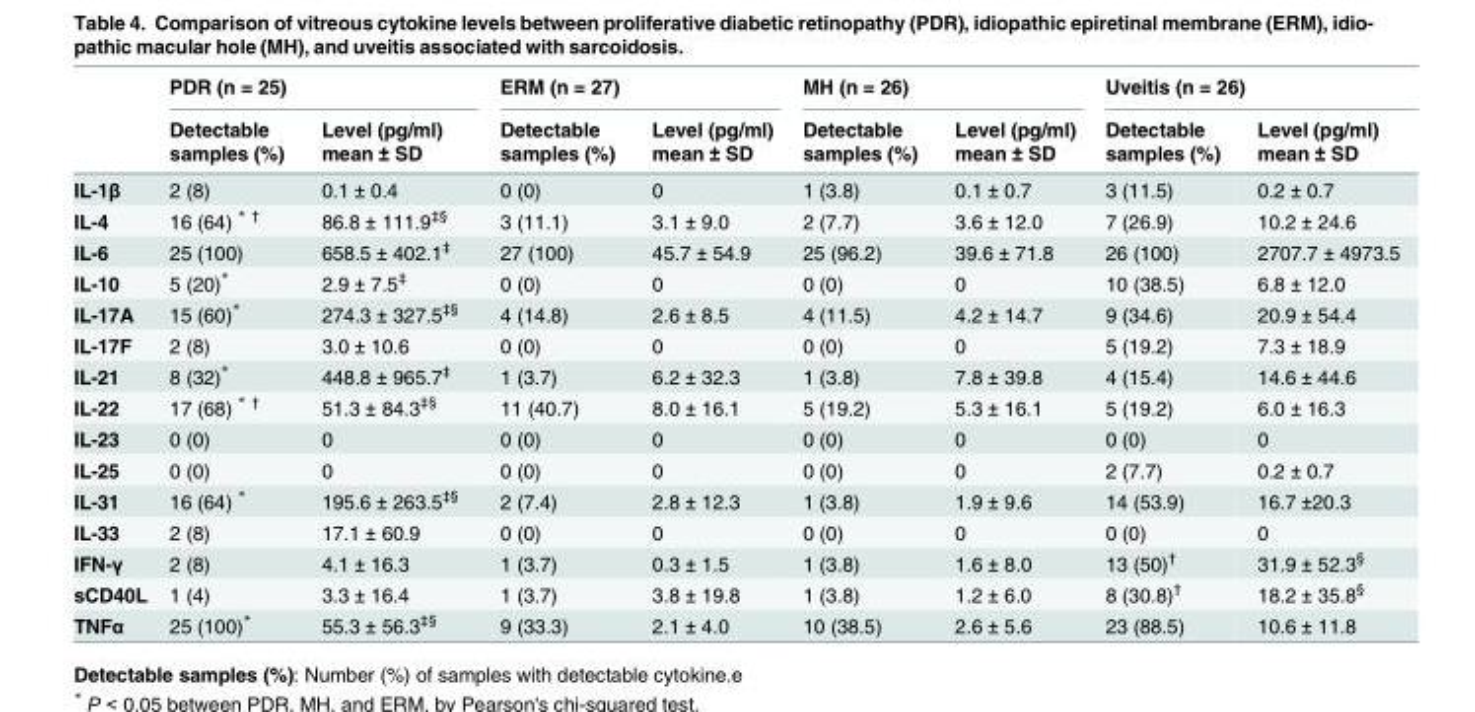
<table><thead><tr><td rowspan="2"></td><td colspan="2">PDR (n = 25)</td><td colspan="2">ERM (n = 27)</td><td colspan="2">MH (n = 26)</td><td colspan="2">Uveitis (n = 26)</td></tr><tr><td>Detectable samples (%)</td><td>Level (pg/ml) mean ± SD</td><td>Detectable samples (%)</td><td>Level (pg/ml) mean ± SD</td><td>Detectable samples (%)</td><td>Level (pg/ml) mean ± SD</td><td>Detectable samples (%)</td><td>Level (pg/ml) mean ± SD</td></tr></thead><tbody><tr><td>IL-1β</td><td>2 (8)</td><td>0.1 ± 0.4</td><td>0 (0)</td><td>0</td><td>1 (3.8)</td><td>0.1 ± 0.7</td><td>3 (11.5)</td><td>0.2 ± 0.7</td></tr><tr><td>IL-4</td><td>16 (64) <sup>* †</sup></td><td>86.8 ± 111.9<sup>‡§</sup></td><td>3 (11.1)</td><td>3.1 ± 9.0</td><td>2 (7.7)</td><td>3.6 ± 12.0</td><td>7 (26.9)</td><td>10.2 ± 24.6</td></tr><tr><td>IL-6</td><td>25 (100)</td><td>658.5 ± 402.1<sup>‡</sup></td><td>27 (100)</td><td>45.7 ± 54.9</td><td>25 (96.2)</td><td>39.6 ± 71.8</td><td>26 (100)</td><td>2707.7 ± 4973.5</td></tr><tr><td>IL-10</td><td>5 (20)*</td><td>2.9 ± 7.5<sup>‡</sup></td><td>0 (0)</td><td>0</td><td>0 (0)</td><td>0</td><td>10 (38.5)</td><td>6.8 ± 12.0</td></tr><tr><td>IL-17A</td><td>15 (60)*</td><td>274.3 ± 327.5<sup>‡§</sup></td><td>4 (14.8)</td><td>2.6 ± 8.5</td><td>4 (11.5)</td><td>4.2 ± 14.7</td><td>9 (34.6)</td><td>20.9 ± 54.4</td></tr><tr><td>IL-17F</td><td>2 (8)</td><td>3.0 ± 10.6</td><td>0 (0)</td><td>0</td><td>0 (0)</td><td>0</td><td>5 (19.2)</td><td>7.3 ± 18.9</td></tr><tr><td>IL-21</td><td>8 (32)*</td><td>448.8 ± 965.7<sup>‡</sup></td><td>1 (3.7)</td><td>6.2 ± 32.3</td><td>1 (3.8)</td><td>7.8 ± 39.8</td><td>4 (15.4)</td><td>14.6 ± 44.6</td></tr><tr><td>IL-22</td><td>17 (68) <sup>* †</sup></td><td>51.3 ± 84.3<sup>‡§</sup></td><td>11 (40.7)</td><td>8.0 ± 16.1</td><td>5 (19.2)</td><td>5.3 ± 16.1</td><td>5 (19.2)</td><td>6.0 ± 16.3</td></tr><tr><td>IL-23</td><td>0 (0)</td><td>0</td><td>0 (0)</td><td>0</td><td>0 (0)</td><td>0</td><td>0 (0)</td><td>0</td></tr><tr><td>IL-25</td><td>0 (0)</td><td>0</td><td>0 (0)</td><td>0</td><td>0 (0)</td><td>0</td><td>2 (7.7)</td><td>0.2 ± 0.7</td></tr><tr><td>IL-31</td><td>16 (64) *</td><td>195.6 ± 263.5<sup>‡§</sup></td><td>2 (7.4)</td><td>2.8 ± 12.3</td><td>1 (3.8)</td><td>1.9 ± 9.6</td><td>14 (53.9)</td><td>16.7 ±20.3</td></tr><tr><td>IL-33</td><td>2 (8)</td><td>17.1 ± 60.9</td><td>0 (0)</td><td>0</td><td>0 (0)</td><td>0</td><td>0 (0)</td><td>0</td></tr><tr><td>IFN-γ</td><td>2 (8)</td><td>4.1 ± 16.3</td><td>1 (3.7)</td><td>0.3 ± 1.5</td><td>1 (3.8)</td><td>1.6 ± 8.0</td><td>13 (50)<sup>†</sup></td><td>31.9 ± 52.3<sup>§</sup></td></tr><tr><td>sCD40L</td><td>1 (4)</td><td>3.3 ± 16.4</td><td>1 (3.7)</td><td>3.8 ± 19.8</td><td>1 (3.8)</td><td>1.2 ± 6.0</td><td>8 (30.8)<sup>†</sup></td><td>18.2 ± 35.8<sup>§</sup></td></tr><tr><td>TNFα</td><td>25 (100)*</td><td>55.3 ± 56.3<sup>‡§</sup></td><td>9 (33.3)</td><td>2.1 ± 4.0</td><td>10 (38.5)</td><td>2.6 ± 5.6</td><td>23 (88.5)</td><td>10.6 ± 11.8</td></tr></tbody></table>